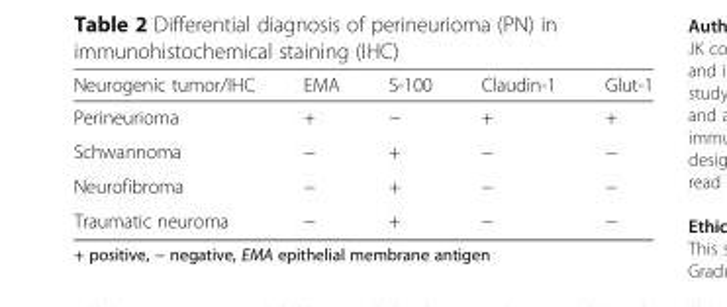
<table><thead><tr><td>Neurogenic tumor/IHC</td><td>EMA</td><td>S-100</td><td>Claudin-1</td><td>Glut-1</td></tr></thead><tbody><tr><td>Perineurioma</td><td>+</td><td>−</td><td>+</td><td>+</td></tr><tr><td>Schwannoma</td><td>−</td><td>+</td><td>−</td><td>−</td></tr><tr><td>Neurofibroma</td><td>−</td><td>+</td><td>−</td><td>−</td></tr><tr><td>Traumatic neuroma</td><td>−</td><td>+</td><td>−</td><td>−</td></tr></tbody></table>